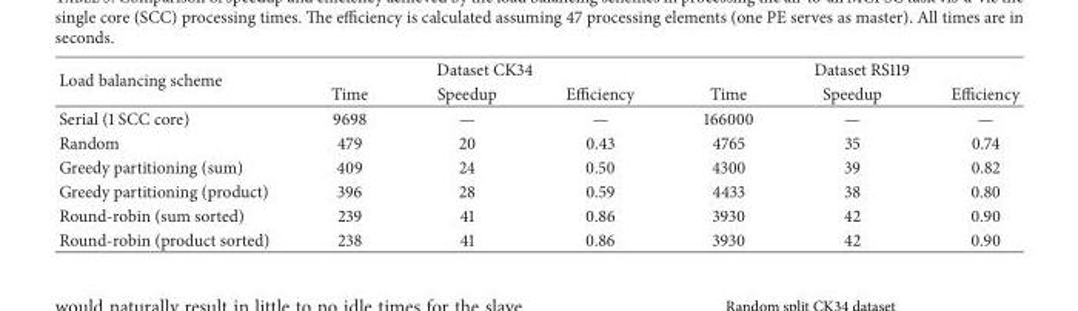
<table><thead><tr><td rowspan="2">Load balancing scheme</td><td colspan="3">Dataset CK34</td><td colspan="3">Dataset RS119</td></tr><tr><td>Time</td><td>Speedup</td><td>Efficiency</td><td>Time</td><td>Speedup</td><td>Efficiency</td></tr></thead><tbody><tr><td>Serial (1 SCC core)</td><td>9698</td><td>—</td><td>—</td><td>166000</td><td>—</td><td>—</td></tr><tr><td>Random</td><td>479</td><td>20</td><td>0.43</td><td>4765</td><td>35</td><td>0.74</td></tr><tr><td>Greedy partitioning (sum)</td><td>409</td><td>24</td><td>0.50</td><td>4300</td><td>39</td><td>0.82</td></tr><tr><td>Greedy partitioning (product)</td><td>396</td><td>28</td><td>0.59</td><td>4433</td><td>38</td><td>0.80</td></tr><tr><td>Round-robin (sum sorted)</td><td>239</td><td>41</td><td>0.86</td><td>3930</td><td>42</td><td>0.90</td></tr><tr><td>Round-robin (product sorted)</td><td>238</td><td>41</td><td>0.86</td><td>3930</td><td>42</td><td>0.90</td></tr></tbody></table>